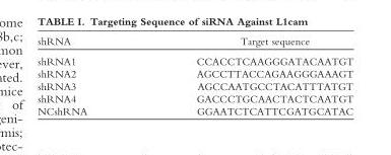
<table><thead><tr><td>shRNA</td><td>Target sequence</td></tr></thead><tbody><tr><td>shRNA1</td><td>CCACCTCAAGGGATACAATGT</td></tr><tr><td>shRNA2</td><td>AGCCTTACCAGAAGGGAAAGT</td></tr><tr><td>shRNA3</td><td>AGCCAATGCCTACATTTATGT</td></tr><tr><td>shRNA4</td><td>GACCCTGCAACTACTCAATGT</td></tr><tr><td>NCshRNA</td><td>GGAATCTCATTCGATGCATAC</td></tr></tbody></table>